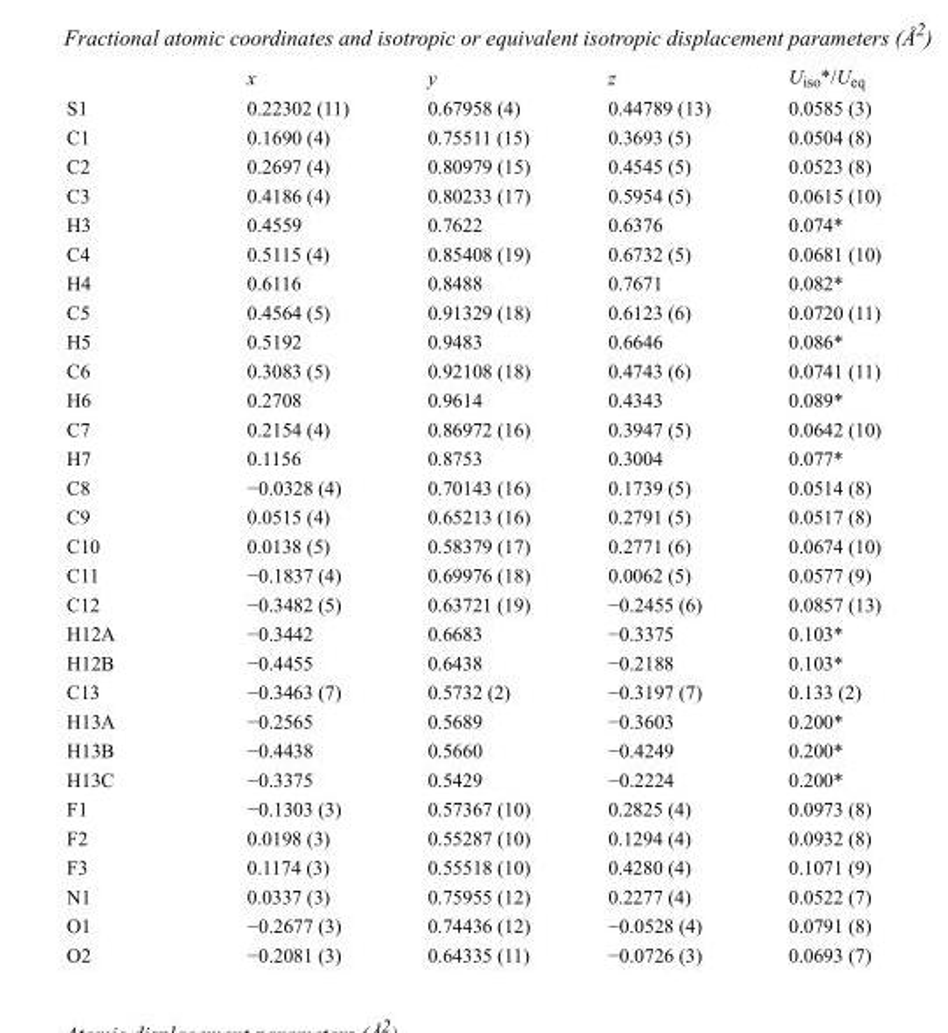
<table><thead><tr><td></td><td>x</td><td>y</td><td>z</td><td>U<sub>iso</sub>*/U<sub>eq</sub></td></tr></thead><tbody><tr><td>S1</td><td>0.22302 (11)</td><td>0.67958 (4)</td><td>0.44789 (13)</td><td>0.0585 (3)</td></tr><tr><td>C1</td><td>0.1690 (4)</td><td>0.75511 (15)</td><td>0.3693 (5)</td><td>0.0504 (8)</td></tr><tr><td>C2</td><td>0.2697 (4)</td><td>0.80979 (15)</td><td>0.4545 (5)</td><td>0.0523 (8)</td></tr><tr><td>C3</td><td>0.4186 (4)</td><td>0.80233 (17)</td><td>0.5954 (5)</td><td>0.0615 (10)</td></tr><tr><td>H3</td><td>0.4559</td><td>0.7622</td><td>0.6376</td><td>0.074*</td></tr><tr><td>C4</td><td>0.5115 (4)</td><td>0.85408 (19)</td><td>0.6732 (5)</td><td>0.0681 (10)</td></tr><tr><td>H4</td><td>0.6116</td><td>0.8488</td><td>0.7671</td><td>0.082*</td></tr><tr><td>C5</td><td>0.4564 (5)</td><td>0.91329 (18)</td><td>0.6123 (6)</td><td>0.0720 (11)</td></tr><tr><td>H5</td><td>0.5192</td><td>0.9483</td><td>0.6646</td><td>0.086*</td></tr><tr><td>C6</td><td>0.3083 (5)</td><td>0.92108 (18)</td><td>0.4743 (6)</td><td>0.0741 (11)</td></tr><tr><td>H6</td><td>0.2708</td><td>0.9614</td><td>0.4343</td><td>0.089*</td></tr><tr><td>C7</td><td>0.2154 (4)</td><td>0.86972 (16)</td><td>0.3947 (5)</td><td>0.0642 (10)</td></tr><tr><td>H7</td><td>0.1156</td><td>0.8753</td><td>0.3004</td><td>0.077*</td></tr><tr><td>C8</td><td>−0.0328 (4)</td><td>0.70143 (16)</td><td>0.1739 (5)</td><td>0.0514 (8)</td></tr><tr><td>C9</td><td>0.0515 (4)</td><td>0.65213 (16)</td><td>0.2791 (5)</td><td>0.0517 (8)</td></tr><tr><td>C10</td><td>0.0138 (5)</td><td>0.58379 (17)</td><td>0.2771 (6)</td><td>0.0674 (10)</td></tr><tr><td>C11</td><td>−0.1837 (4)</td><td>0.69976 (18)</td><td>0.0062 (5)</td><td>0.0577 (9)</td></tr><tr><td>C12</td><td>−0.3482 (5)</td><td>0.63721 (19)</td><td>−0.2455 (6)</td><td>0.0857 (13)</td></tr><tr><td>H12A</td><td>−0.3442</td><td>0.6683</td><td>−0.3375</td><td>0.103*</td></tr><tr><td>H12B</td><td>−0.4455</td><td>0.6438</td><td>−0.2188</td><td>0.103*</td></tr><tr><td>C13</td><td>−0.3463 (7)</td><td>0.5732 (2)</td><td>−0.3197 (7)</td><td>0.133 (2)</td></tr><tr><td>H13A</td><td>−0.2565</td><td>0.5689</td><td>−0.3603</td><td>0.200*</td></tr><tr><td>H13B</td><td>−0.4438</td><td>0.5660</td><td>−0.4249</td><td>0.200*</td></tr><tr><td>H13C</td><td>−0.3375</td><td>0.5429</td><td>−0.2224</td><td>0.200*</td></tr><tr><td>F1</td><td>−0.1303 (3)</td><td>0.57367 (10)</td><td>0.2825 (4)</td><td>0.0973 (8)</td></tr><tr><td>F2</td><td>0.0198 (3)</td><td>0.55287 (10)</td><td>0.1294 (4)</td><td>0.0932 (8)</td></tr><tr><td>F3</td><td>0.1174 (3)</td><td>0.55518 (10)</td><td>0.4280 (4)</td><td>0.1071 (9)</td></tr><tr><td>N1</td><td>0.0337 (3)</td><td>0.75955 (12)</td><td>0.2277 (4)</td><td>0.0522 (7)</td></tr><tr><td>O1</td><td>−0.2677 (3)</td><td>0.74436 (12)</td><td>−0.0528 (4)</td><td>0.0791 (8)</td></tr><tr><td>O2</td><td>−0.2081 (3)</td><td>0.64335 (11)</td><td>−0.0726 (3)</td><td>0.0693 (7)</td></tr></tbody></table>